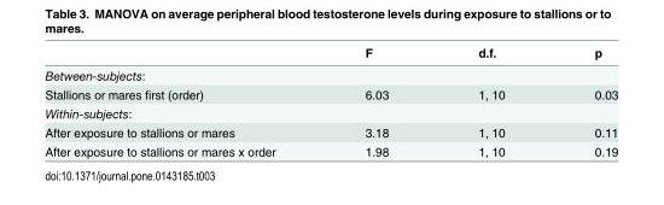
<table><thead><tr><td></td><td>F</td><td>d.f.</td><td>p</td></tr></thead><tbody><tr><td colspan="4">Between-subjects:</td></tr><tr><td>Stallions or mares first (order)</td><td>6.03</td><td>1, 10</td><td>0.03</td></tr><tr><td colspan="4">Within-subjects:</td></tr><tr><td>After exposure to stallions or mares</td><td>3.18</td><td>1, 10</td><td>0.11</td></tr><tr><td>After exposure to stallions or mares x order</td><td>1.98</td><td>1, 10</td><td>0.19</td></tr></tbody></table>